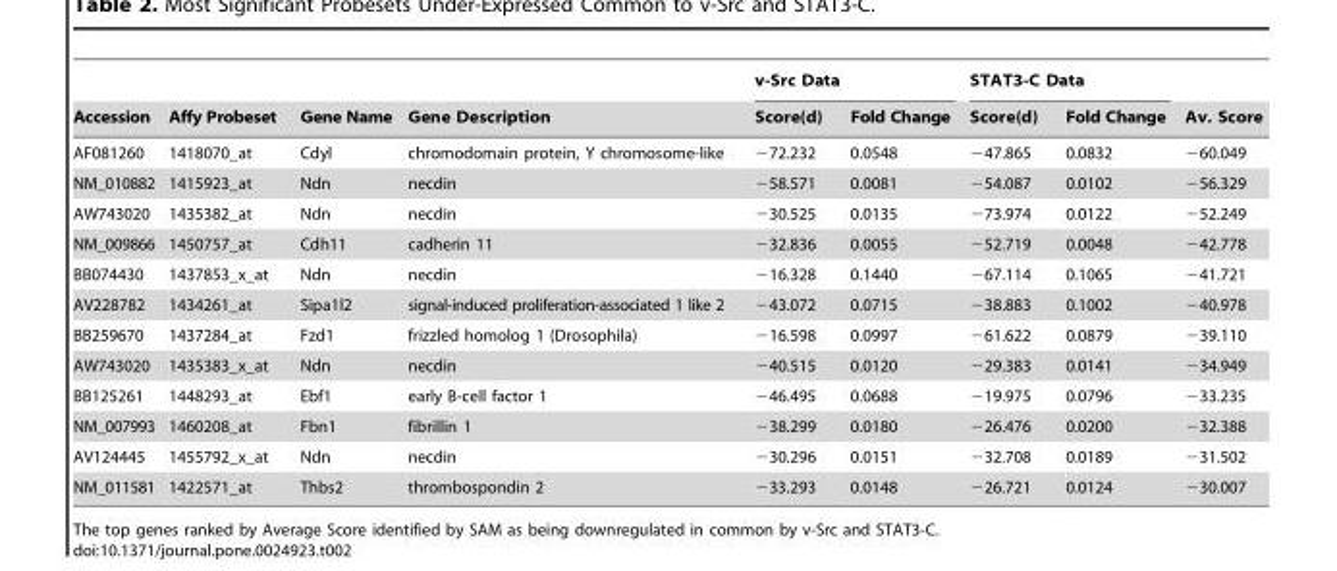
<table><thead><tr><td rowspan="2">Accession</td><td rowspan="2">Affy Probeset</td><td rowspan="2">Gene Name</td><td rowspan="2">Gene Description</td><td colspan="2">v-Src Data</td><td colspan="2">STAT3-C Data</td><td rowspan="2">Av. Score</td></tr><tr><td>Score(d)</td><td>Fold Change</td><td>Score(d)</td><td>Fold Change</td></tr></thead><tbody><tr><td>AF081260</td><td>1418070_at</td><td>Cdyl</td><td>chromodomain protein, Y chromosome-like</td><td>−72.232</td><td>0.0548</td><td>−47.865</td><td>0.0832</td><td>−60.049</td></tr><tr><td>NM_010882</td><td>1415923_at</td><td>Ndn</td><td>necdin</td><td>−58.571</td><td>0.0081</td><td>−54.087</td><td>0.0102</td><td>−56.329</td></tr><tr><td>AW743020</td><td>1435382_at</td><td>Ndn</td><td>necdin</td><td>−30.525</td><td>0.0135</td><td>−73.974</td><td>0.0122</td><td>−52.249</td></tr><tr><td>NM_009866</td><td>1450757_at</td><td>Cdh11</td><td>cadherin 11</td><td>−32.836</td><td>0.0055</td><td>−52.719</td><td>0.0048</td><td>−42.778</td></tr><tr><td>BB074430</td><td>1437853_x_at</td><td>Ndn</td><td>necdin</td><td>−16.328</td><td>0.1440</td><td>−67.114</td><td>0.1065</td><td>−41.721</td></tr><tr><td>AV228782</td><td>1434261_at</td><td>Sipa1l2</td><td>signal-induced proliferation-associated 1 like 2</td><td>−43.072</td><td>0.0715</td><td>−38.883</td><td>0.1002</td><td>−40.978</td></tr><tr><td>BB259670</td><td>1437284_at</td><td>Fzd1</td><td>frizzled homolog 1 (Drosophila)</td><td>−16.598</td><td>0.0997</td><td>−61.622</td><td>0.0879</td><td>−39.110</td></tr><tr><td>AW743020</td><td>1435383_x_at</td><td>Ndn</td><td>necdin</td><td>−40.515</td><td>0.0120</td><td>−29.383</td><td>0.0141</td><td>−34.949</td></tr><tr><td>BB125261</td><td>1448293_at</td><td>Ebf1</td><td>early B-cell factor 1</td><td>−46.495</td><td>0.0688</td><td>−19.975</td><td>0.0796</td><td>−33.235</td></tr><tr><td>NM_007993</td><td>1460208_at</td><td>Fbn1</td><td>fibrillin 1</td><td>−38.299</td><td>0.0180</td><td>−26.476</td><td>0.0200</td><td>−32.388</td></tr><tr><td>AV124445</td><td>1455792_x_at</td><td>Ndn</td><td>necdin</td><td>−30.296</td><td>0.0151</td><td>−32.708</td><td>0.0189</td><td>−31.502</td></tr><tr><td>NM_011581</td><td>1422571_at</td><td>Thbs2</td><td>thrombospondin 2</td><td>−33.293</td><td>0.0148</td><td>−26.721</td><td>0.0124</td><td>−30.007</td></tr></tbody></table>